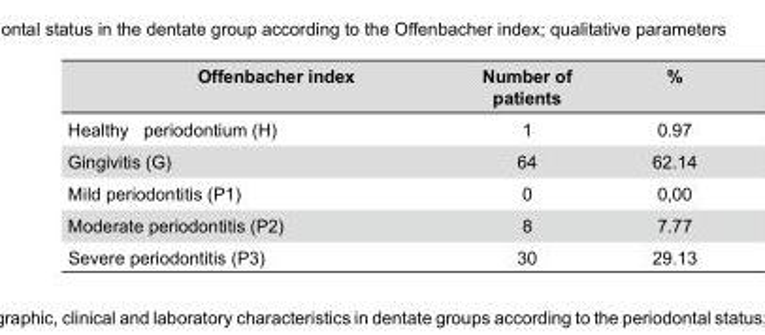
<table><thead><tr><td>Offenbacher index</td><td>Number of patients</td><td>%</td></tr></thead><tbody><tr><td>Healthy periodontium (H)</td><td>1</td><td>0.97</td></tr><tr><td>Gingivitis (G)</td><td>64</td><td>62.14</td></tr><tr><td>Mild periodontitis (P1)</td><td>0</td><td>0,00</td></tr><tr><td>Moderate periodontitis (P2)</td><td>8</td><td>7.77</td></tr><tr><td>Severe periodontitis (P3)</td><td>30</td><td>29.13</td></tr></tbody></table>